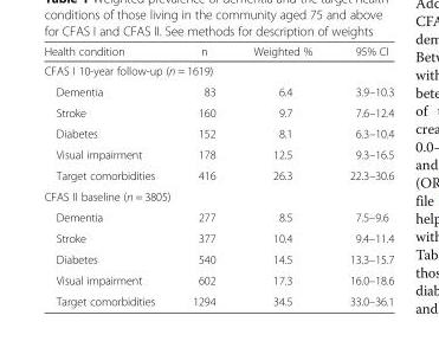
<table><thead><tr><td>Health condition</td><td>n</td><td>Weighted %</td><td>95% CI</td></tr></thead><tbody><tr><td colspan="4">CFAS I 10-year follow-up (n = 1619)</td></tr><tr><td>Dementia</td><td>83</td><td>6.4</td><td>3.9–10.3</td></tr><tr><td>Stroke</td><td>160</td><td>9.7</td><td>7.6–12.4</td></tr><tr><td>Diabetes</td><td>152</td><td>8.1</td><td>6.3–10.4</td></tr><tr><td>Visual impairment</td><td>178</td><td>12.5</td><td>9.3–16.5</td></tr><tr><td>Target comorbidities</td><td>416</td><td>26.3</td><td>22.3–30.6</td></tr><tr><td colspan="4">CFAS II baseline (n = 3805)</td></tr><tr><td>Dementia</td><td>277</td><td>8.5</td><td>7.5–9.6</td></tr><tr><td>Stroke</td><td>377</td><td>10.4</td><td>9.4–11.4</td></tr><tr><td>Diabetes</td><td>540</td><td>14.5</td><td>13.3–15.7</td></tr><tr><td>Visual impairment</td><td>602</td><td>17.3</td><td>16.0–18.6</td></tr><tr><td>Target comorbidities</td><td>1294</td><td>34.5</td><td>33.0–36.1</td></tr></tbody></table>